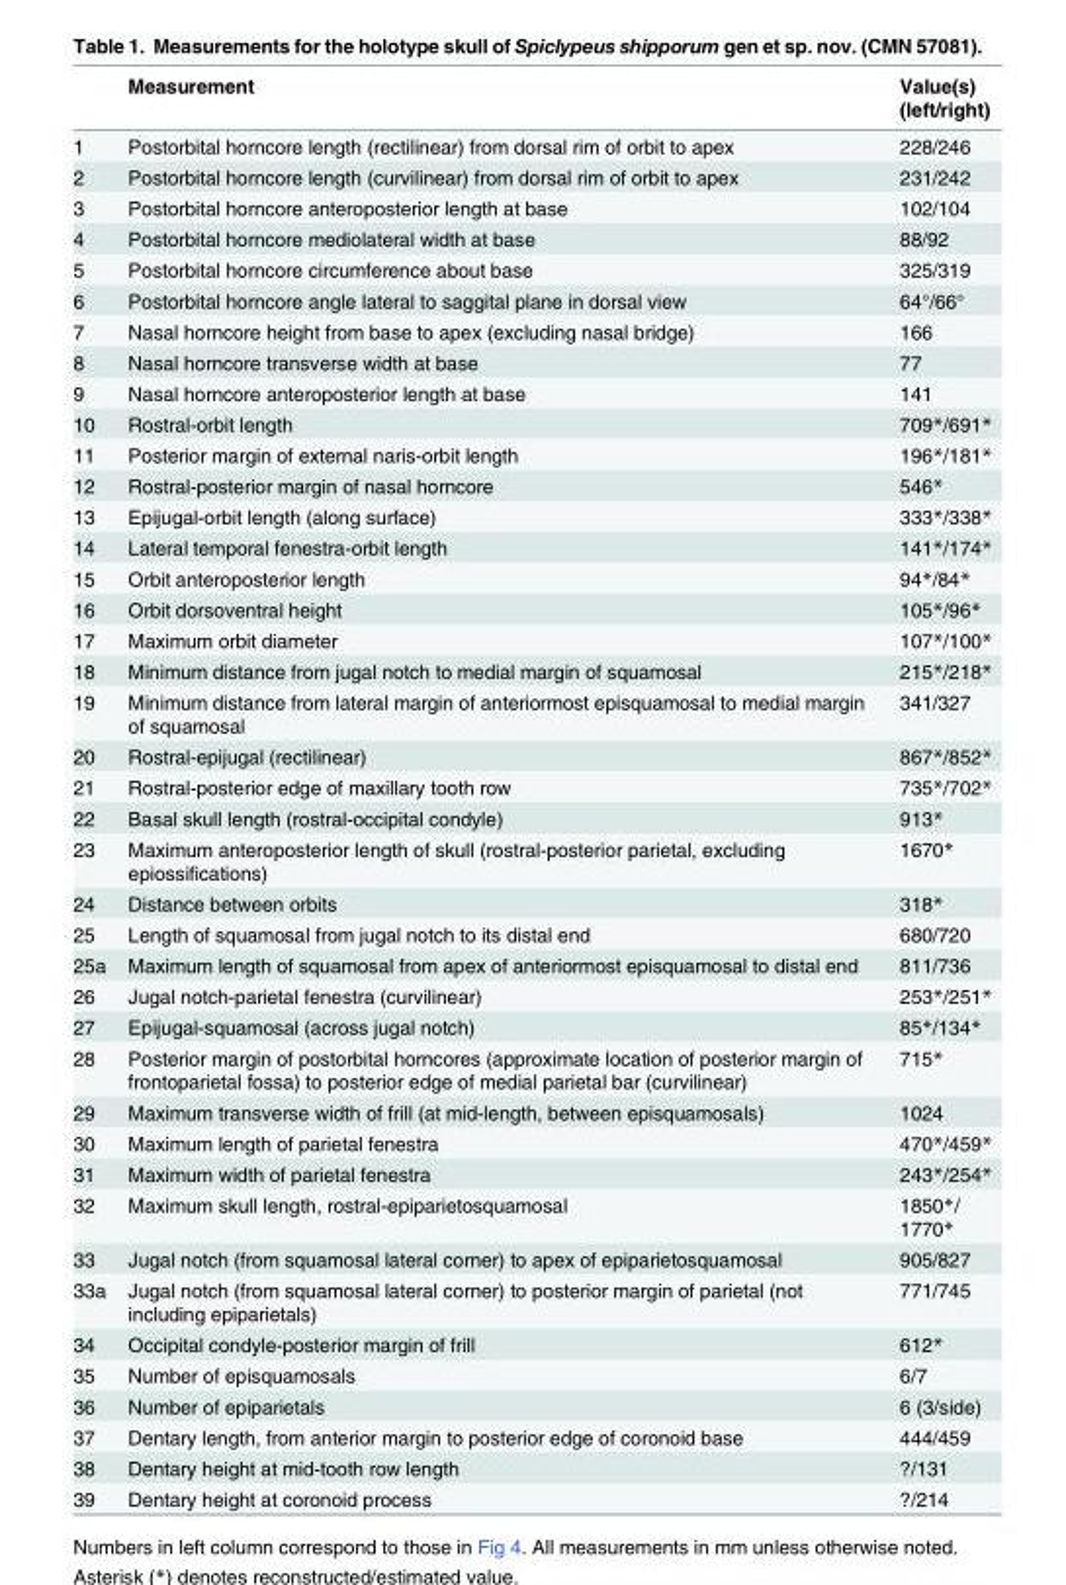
<table><thead><tr><td></td><td>Measurement</td><td>Value(s) (left/right)</td></tr></thead><tbody><tr><td>1</td><td>Postorbital horncore length (rectilinear) from dorsal rim of orbit to apex</td><td>228/246</td></tr><tr><td>2</td><td>Postorbital horncore length (curvilinear) from dorsal rim of orbit to apex</td><td>231/242</td></tr><tr><td>3</td><td>Postorbital horncore anteroposterior length at base</td><td>102/104</td></tr><tr><td>4</td><td>Postorbital horncore mediolateral width at base</td><td>88/92</td></tr><tr><td>5</td><td>Postorbital horncore circumference about base</td><td>325/319</td></tr><tr><td>6</td><td>Postorbital horncore angle lateral to saggital plane in dorsal view</td><td>64°/66°</td></tr><tr><td>7</td><td>Nasal horncore height from base to apex (excluding nasal bridge)</td><td>166</td></tr><tr><td>8</td><td>Nasal horncore transverse width at base</td><td>77</td></tr><tr><td>9</td><td>Nasal horncore anteroposterior length at base</td><td>141</td></tr><tr><td>10</td><td>Rostral-orbit length</td><td>709*/691*</td></tr><tr><td>11</td><td>Posterior margin of external naris-orbit length</td><td>196*/181*</td></tr><tr><td>12</td><td>Rostral-posterior margin of nasal horncore</td><td>546*</td></tr><tr><td>13</td><td>Epijugal-orbit length (along surface)</td><td>333*/338*</td></tr><tr><td>14</td><td>Lateral temporal fenestra-orbit length</td><td>141*/174*</td></tr><tr><td>15</td><td>Orbit anteroposterior length</td><td>94*/84*</td></tr><tr><td>16</td><td>Orbit dorsoventral height</td><td>105*/96*</td></tr><tr><td>17</td><td>Maximum orbit diameter</td><td>107*/100*</td></tr><tr><td>18</td><td>Minimum distance from jugal notch to medial margin of squamosal</td><td>215*/218*</td></tr><tr><td>19</td><td>Minimum distance from lateral margin of anteriormost episquamosal to medial margin of squamosal</td><td>341/327</td></tr><tr><td>20</td><td>Rostral-epijugal (rectilinear)</td><td>867*/852*</td></tr><tr><td>21</td><td>Rostral-posterior edge of maxillary tooth row</td><td>735*/702*</td></tr><tr><td>22</td><td>Basal skull length (rostral-occipital condyle)</td><td>913*</td></tr><tr><td>23</td><td>Maximum anteroposterior length of skull (rostral-posterior parietal, excluding epiossifications)</td><td>1670*</td></tr><tr><td>24</td><td>Distance between orbits</td><td>318*</td></tr><tr><td>25</td><td>Length of squamosal from jugal notch to its distal end</td><td>680/720</td></tr><tr><td>25a</td><td>Maximum length of squamosal from apex of anteriormost episquamosal to distal end</td><td>811/736</td></tr><tr><td>26</td><td>Jugal notch-parietal fenestra (curvilinear)</td><td>253*/251*</td></tr><tr><td>27</td><td>Epijugal-squamosal (across jugal notch)</td><td>85*/134*</td></tr><tr><td>28</td><td>Posterior margin of postorbital horncores (approximate location of posterior margin of frontoparietal fossa) to posterior edge of medial parietal bar (curvilinear)</td><td>715*</td></tr><tr><td>29</td><td>Maximum transverse width of frill (at mid-length, between episquamosals)</td><td>1024</td></tr><tr><td>30</td><td>Maximum length of parietal fenestra</td><td>470*/459*</td></tr><tr><td>31</td><td>Maximum width of parietal fenestra</td><td>243*/254*</td></tr><tr><td>32</td><td>Maximum skull length, rostral-epiparietosquamosal</td><td>1850*/ 1770*</td></tr><tr><td>33</td><td>Jugal notch (from squamosal lateral corner) to apex of epiparietosquamosal</td><td>905/827</td></tr><tr><td>33a</td><td>Jugal notch (from squamosal lateral corner) to posterior margin of parietal (not including epiparietals)</td><td>771/745</td></tr><tr><td>34</td><td>Occipital condyle-posterior margin of frill</td><td>612*</td></tr><tr><td>35</td><td>Number of episquamosals</td><td>6/7</td></tr><tr><td>36</td><td>Number of epiparietals</td><td>6 (3/side)</td></tr><tr><td>37</td><td>Dentary length, from anterior margin to posterior edge of coronoid base</td><td>444/459</td></tr><tr><td>38</td><td>Dentary height at mid-tooth row length</td><td>?/131</td></tr><tr><td>39</td><td>Dentary height at coronoid process</td><td>?/214</td></tr></tbody></table>